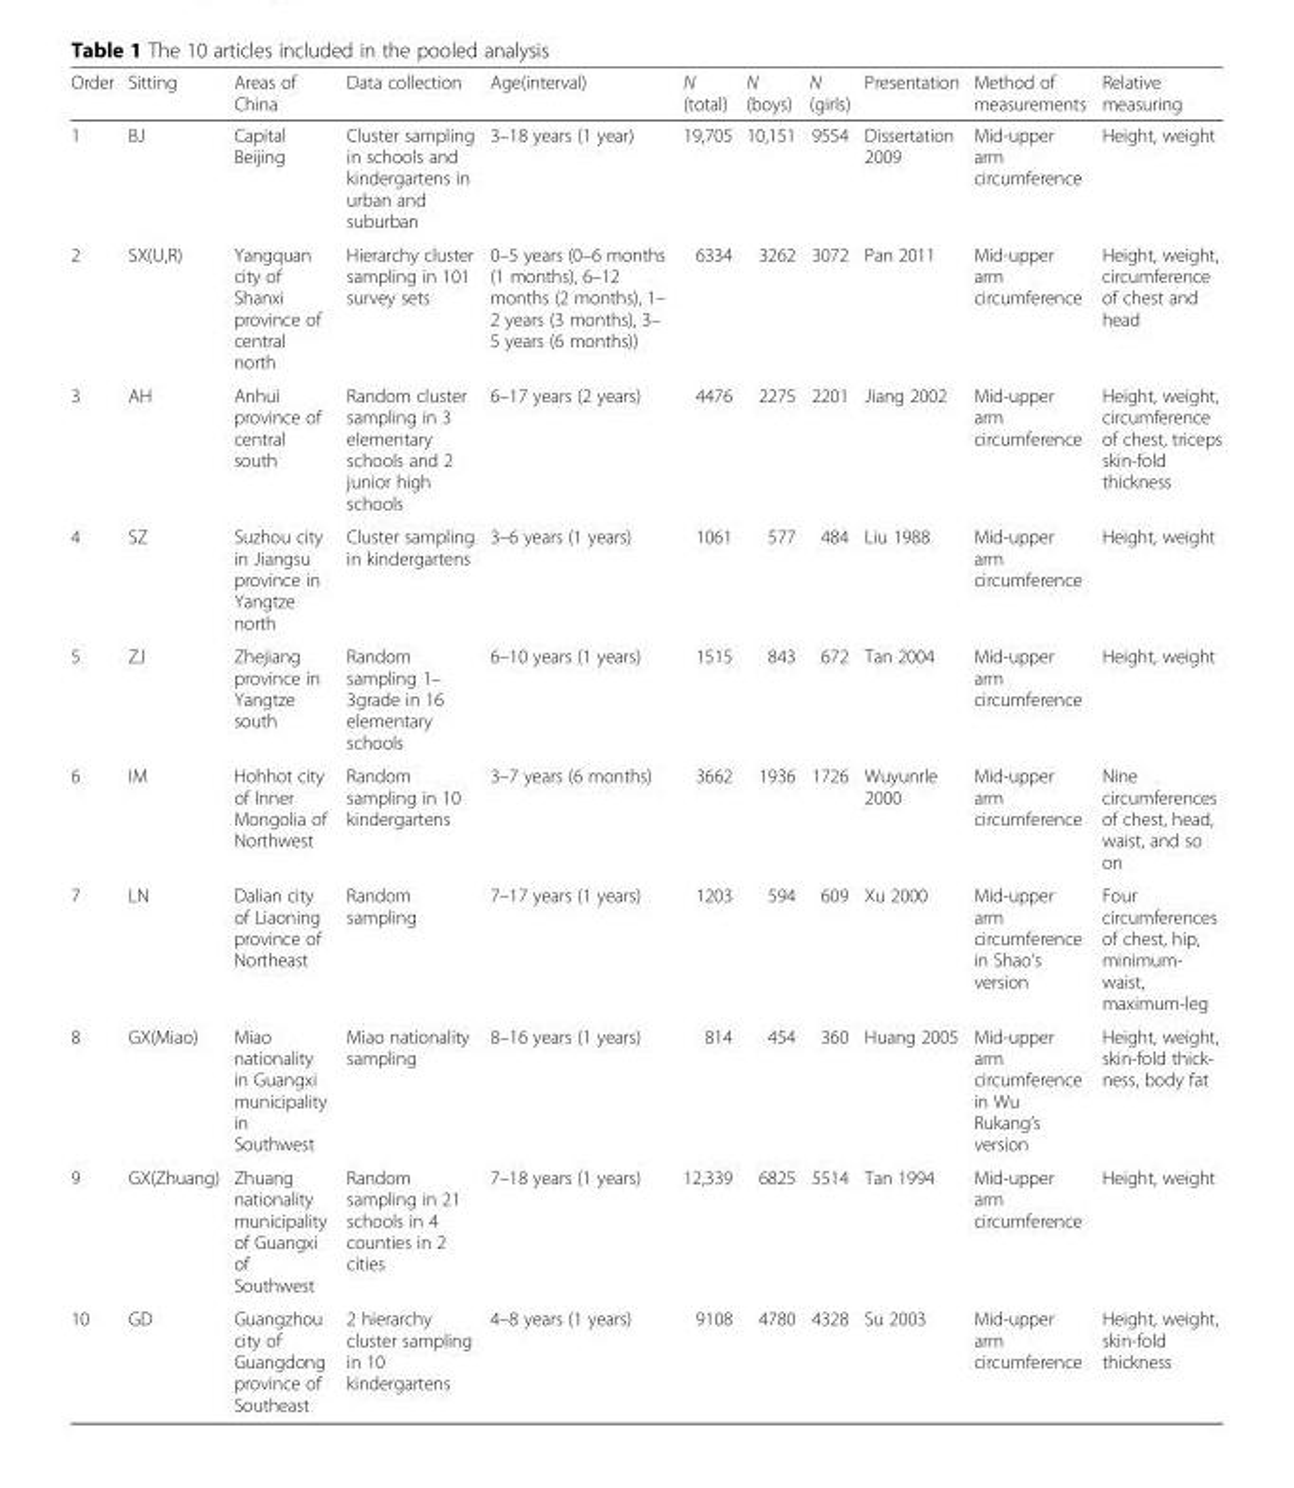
<table><thead><tr><td>Order</td><td>Sitting</td><td>Areas of China</td><td>Data collection</td><td>Age(interval)</td><td>N (total)</td><td>N (boys)</td><td>N (girls)</td><td>Presentation</td><td>Method of measurements</td><td>Relative measuring</td></tr></thead><tbody><tr><td>1</td><td>BJ</td><td>Capital Beijing</td><td>Cluster sampling in schools and kindergartens in urban and suburban</td><td>3–18 years (1 year)</td><td>19,705</td><td>10,151</td><td>9554</td><td>Dissertation 2009</td><td>Mid-upper arm circumference</td><td>Height, weight</td></tr><tr><td>2</td><td>SX(U,R)</td><td>Yangquan city of Shanxi province of central north</td><td>Hierarchy cluster sampling in 101 survey sets</td><td>0–5 years (0–6 months (1 months), 6–12 months (2 months), 1– 2 years (3 months), 3– 5 years (6 months))</td><td>6334</td><td>3262</td><td>3072</td><td>Pan 2011</td><td>Mid-upper arm circumference</td><td>Height, weight, circumference of chest and head</td></tr><tr><td>3</td><td>AH</td><td>Anhui province of central south</td><td>Random cluster sampling in 3 elementary schools and 2 junior high schools</td><td>6–17 years (2 years)</td><td>4476</td><td>2275</td><td>2201</td><td>Jiang 2002</td><td>Mid-upper arm circumference</td><td>Height, weight, circumference of chest, triceps skin-fold thickness</td></tr><tr><td>4</td><td>SZ</td><td>Suzhou city in Jiangsu province in Yangtze north</td><td>Cluster sampling in kindergartens</td><td>3–6 years (1 years)</td><td>1061</td><td>577</td><td>484</td><td>Liu 1988</td><td>Mid-upper arm circumference</td><td>Height, weight</td></tr><tr><td>5</td><td>ZJ</td><td>Zhejiang province in Yangtze south</td><td>Random sampling 1– 3grade in 16 elementary schools</td><td>6–10 years (1 years)</td><td>1515</td><td>843</td><td>672</td><td>Tan 2004</td><td>Mid-upper arm circumference</td><td>Height, weight</td></tr><tr><td>6</td><td>IM</td><td>Hohhot city of Inner Mongolia of Northwest</td><td>Random sampling in 10 kindergartens</td><td>3–7 years (6 months)</td><td>3662</td><td>1936</td><td>1726</td><td>Wuyunrle 2000</td><td>Mid-upper arm circumference</td><td>Nine circumferences of chest, head, waist, and so on</td></tr><tr><td>7</td><td>LN</td><td>Dalian city of Liaoning province of Northeast</td><td>Random sampling</td><td>7–17 years (1 years)</td><td>1203</td><td>594</td><td>609</td><td>Xu 2000</td><td>Mid-upper arm circumference in Shao’s version</td><td>Four circumferences of chest, hip, minimum- waist, maximum-leg</td></tr><tr><td>8</td><td>GX(Miao)</td><td>Miao nationality in Guangxi municipality in Southwest</td><td>Miao nationality sampling</td><td>8–16 years (1 years)</td><td>814</td><td>454</td><td>360</td><td>Huang 2005</td><td>Mid-upper arm circumference in Wu Rukang’s version</td><td>Height, weight, skin-fold thick- ness, body fat</td></tr><tr><td>9</td><td>GX(Zhuang)</td><td>Zhuang nationality municipality of Guangxi of Southwest</td><td>Random sampling in 21 schools in 4 counties in 2 cities</td><td>7–18 years (1 years)</td><td>12,339</td><td>6825</td><td>5514</td><td>Tan 1994</td><td>Mid-upper arm circumference</td><td>Height, weight</td></tr><tr><td>10</td><td>GD</td><td>Guangzhou city of Guangdong province of Southeast</td><td>2 hierarchy cluster sampling in 10 kindergartens</td><td>4–8 years (1 years)</td><td>9108</td><td>4780</td><td>4328</td><td>Su 2003</td><td>Mid-upper arm circumference</td><td>Height, weight, skin-fold thickness</td></tr></tbody></table>